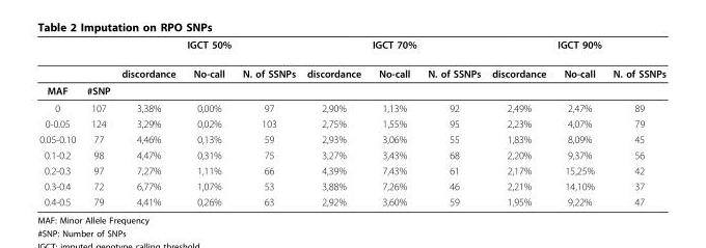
<table><thead><tr><td></td><td></td><td></td><td>IGCT 50%</td><td></td><td></td><td>IGCT 70%</td><td></td><td></td><td>IGCT 90%</td><td></td></tr></thead><tbody><tr><td></td><td></td><td>discordance</td><td>No-call</td><td>N. of SSNPs</td><td>discordance</td><td>No-call</td><td>N. of SSNPs</td><td>discordance</td><td>No-call</td><td>N. of SSNPs</td></tr><tr><td>MAF</td><td>#SNP</td><td></td><td></td><td></td><td></td><td></td><td></td><td></td><td></td><td></td></tr><tr><td>0</td><td>107</td><td>3,38%</td><td>0,00%</td><td>97</td><td>2,90%</td><td>1,13%</td><td>92</td><td>2,49%</td><td>2,47%</td><td>89</td></tr><tr><td>0-0.05</td><td>124</td><td>3,29%</td><td>0,02%</td><td>103</td><td>2,75%</td><td>1,55%</td><td>95</td><td>2,23%</td><td>4,07%</td><td>79</td></tr><tr><td>0.05-0.10</td><td>77</td><td>4,46%</td><td>0,13%</td><td>59</td><td>2,93%</td><td>3,06%</td><td>55</td><td>1,83%</td><td>8,09%</td><td>45</td></tr><tr><td>0.1-0.2</td><td>98</td><td>4,47%</td><td>0,31%</td><td>75</td><td>3,27%</td><td>3,43%</td><td>68</td><td>2,20%</td><td>9,37%</td><td>56</td></tr><tr><td>0.2-0.3</td><td>97</td><td>7,27%</td><td>1,11%</td><td>66</td><td>4,39%</td><td>7,43%</td><td>61</td><td>2,17%</td><td>15,25%</td><td>42</td></tr><tr><td>0.3-0.4</td><td>72</td><td>6,77%</td><td>1,07%</td><td>53</td><td>3,88%</td><td>7,26%</td><td>46</td><td>2,21%</td><td>14,10%</td><td>37</td></tr><tr><td>0.4-0.5</td><td>79</td><td>4,41%</td><td>0,26%</td><td>63</td><td>2,92%</td><td>3,60%</td><td>59</td><td>1,95%</td><td>9,22%</td><td>47</td></tr></tbody></table>